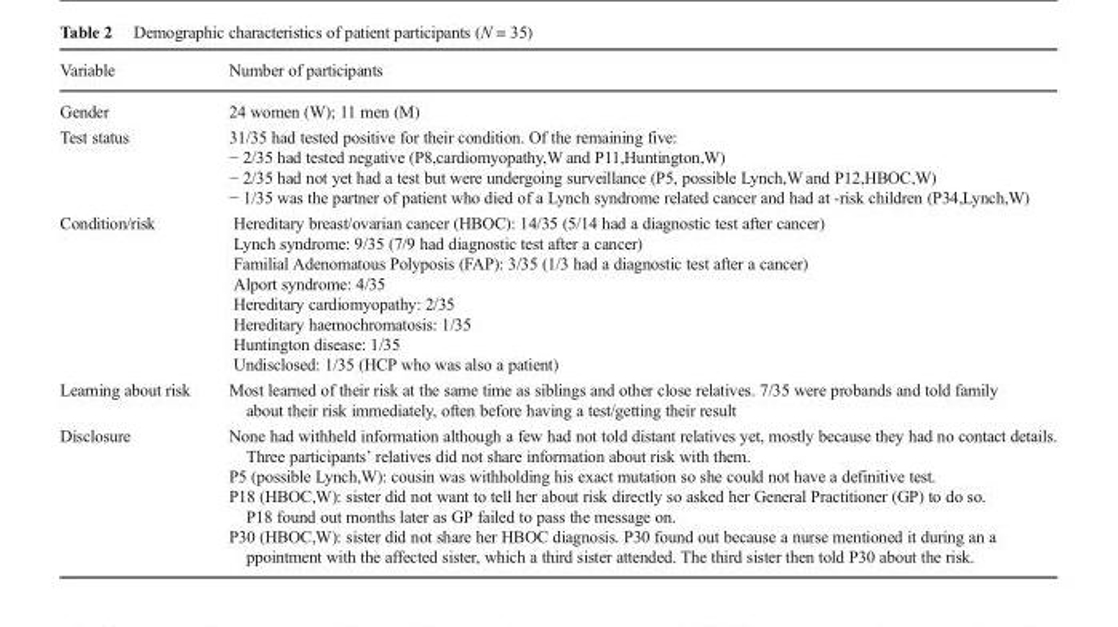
<table><thead><tr><td>Variable</td><td>Number of participants</td></tr></thead><tbody><tr><td>Gender</td><td>24 women (W); 11 men (M)</td></tr><tr><td>Test status</td><td>31/35 had tested positive for their condition. Of the remaining five: − 2/35 had tested negative (P8,cardiomyopathy,W and P11,Huntington,W) − 2/35 had not yet had a test but were undergoing surveillance (P5, possible Lynch,W and P12,HBOC,W) − 1/35 was the partner of patient who died of a Lynch syndrome related cancer and had at -risk children (P34,Lynch,W)</td></tr><tr><td>Condition/risk</td><td>Hereditary breast/ovarian cancer (HBOC): 14/35 (5/14 had a diagnostic test after cancer) Lynch syndrome: 9/35 (7/9 had diagnostic test after a cancer) Familial Adenomatous Polyposis (FAP): 3/35 (1/3 had a diagnostic test after a cancer) Alport syndrome: 4/35 Hereditary cardiomyopathy: 2/35 Hereditary haemochromatosis: 1/35 Huntington disease: 1/35 Undisclosed: 1/35 (HCP who was also a patient)</td></tr><tr><td>Learning about risk</td><td>Most learned of their risk at the same time as siblings and other close relatives. 7/35 were probands and told family about their risk immediately, often before having a test/getting their result</td></tr><tr><td>Disclosure</td><td>None had withheld information although a few had not told distant relatives yet, mostly because they had no contact details. Three participants’ relatives did not share information about risk with them. P5 (possible Lynch,W): cousin was withholding his exact mutation so she could not have a definitive test. P18 (HBOC,W): sister did not want to tell her about risk directly so asked her General Practitioner (GP) to do so. P18 found out months later as GP failed to pass the message on. P30 (HBOC,W): sister did not share her HBOC diagnosis. P30 found out because a nurse mentioned it during an a ppointment with the affected sister, which a third sister attended. The third sister then told P30 about the risk.</td></tr></tbody></table>